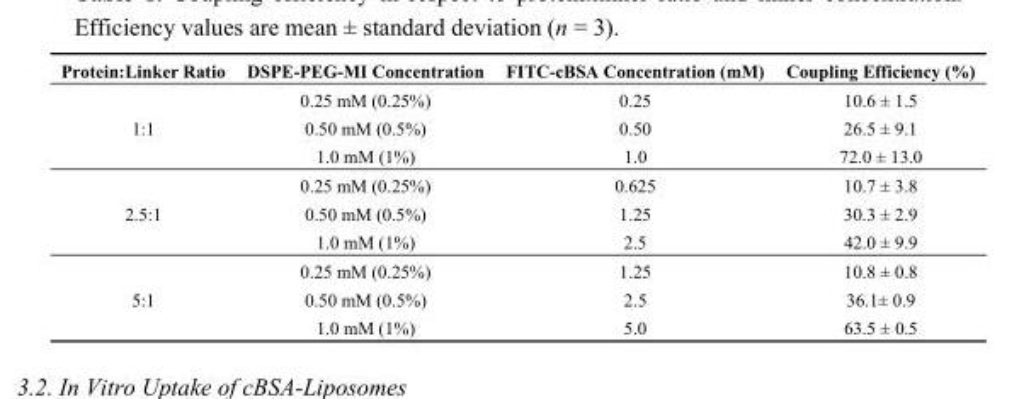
<table><thead><tr><td>Protein:Linker Ratio</td><td>DSPE-PEG-MI Concentration</td><td>FITC-cBSA Concentration (mM)</td><td>Coupling Efficiency (%)</td></tr></thead><tbody><tr><td rowspan="3">1:1</td><td>0.25 mM (0.25%)</td><td>0.25</td><td>10.6 ± 1.5</td></tr><tr><td>0.50 mM (0.5%)</td><td>0.50</td><td>26.5 ± 9.1</td></tr><tr><td>1.0 mM (1%)</td><td>1.0</td><td>72.0 ± 13.0</td></tr><tr><td rowspan="3">2.5:1</td><td>0.25 mM (0.25%)</td><td>0.625</td><td>10.7 ± 3.8</td></tr><tr><td>0.50 mM (0.5%)</td><td>1.25</td><td>30.3 ± 2.9</td></tr><tr><td>1.0 mM (1%)</td><td>2.5</td><td>42.0 ± 9.9</td></tr><tr><td rowspan="3">5:1</td><td>0.25 mM (0.25%)</td><td>1.25</td><td>10.8 ± 0.8</td></tr><tr><td>0.50 mM (0.5%)</td><td>2.5</td><td>36.1± 0.9</td></tr><tr><td>1.0 mM (1%)</td><td>5.0</td><td>63.5 ± 0.5</td></tr></tbody></table>